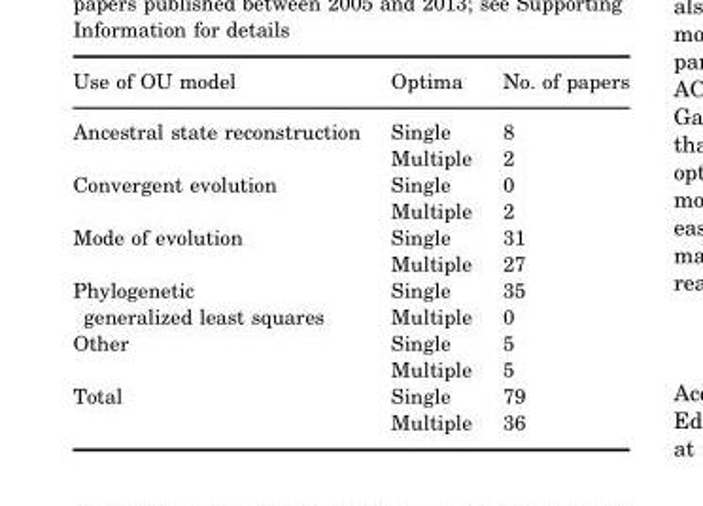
<table><thead><tr><td>Use of OU model</td><td>Optima</td><td>No. of papers</td></tr></thead><tbody><tr><td rowspan="2">Ancestral state reconstruction</td><td>Single</td><td>8</td></tr><tr><td>Multiple</td><td>2</td></tr><tr><td rowspan="2">Convergent evolution</td><td>Single</td><td>0</td></tr><tr><td>Multiple</td><td>2</td></tr><tr><td rowspan="2">Mode of evolution</td><td>Single</td><td>31</td></tr><tr><td>Multiple</td><td>27</td></tr><tr><td rowspan="2">Phylogenetic generalized least squares</td><td>Single</td><td>35</td></tr><tr><td>Multiple</td><td>0</td></tr><tr><td rowspan="2">Other</td><td>Single</td><td>5</td></tr><tr><td>Multiple</td><td>5</td></tr><tr><td rowspan="2">Total</td><td>Single</td><td>79</td></tr><tr><td>Multiple</td><td>36</td></tr></tbody></table>